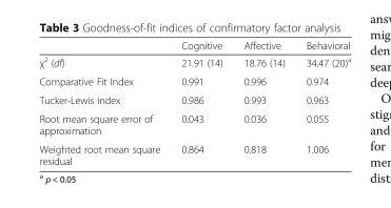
<table><thead><tr><td></td><td>Cognitive</td><td>Affective</td><td>Behavioral</td></tr></thead><tbody><tr><td>χ<sup>2</sup> (df)</td><td>21.91 (14)</td><td>18.76 (14)</td><td>34.47 (20)<sup>a</sup></td></tr><tr><td>Comparative Fit Index</td><td>0.991</td><td>0.996</td><td>0.974</td></tr><tr><td>Tucker-Lewis index</td><td>0.986</td><td>0.993</td><td>0.963</td></tr><tr><td>Root mean square error of approximation</td><td>0.043</td><td>0.036</td><td>0.055</td></tr><tr><td>Weighted root mean square residual</td><td>0.864</td><td>0.818</td><td>1.006</td></tr></tbody></table>